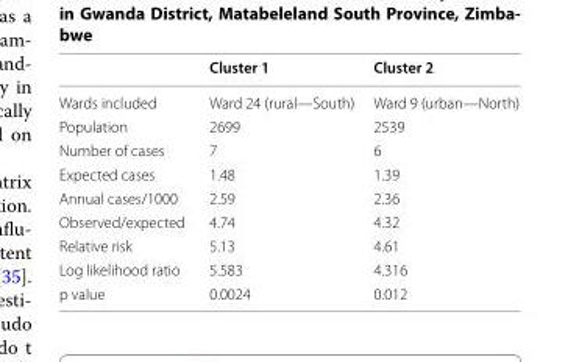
<table><thead><tr><td></td><td>Cluster 1</td><td>Cluster 2</td></tr></thead><tbody><tr><td>Wards included</td><td>Ward 24 (rural—South)</td><td>Ward 9 (urban—North)</td></tr><tr><td>Population</td><td>2699</td><td>2539</td></tr><tr><td>Number of cases</td><td>7</td><td>6</td></tr><tr><td>Expected cases</td><td>1.48</td><td>1.39</td></tr><tr><td>Annual cases/1000</td><td>2.59</td><td>2.36</td></tr><tr><td>Observed/expected</td><td>4.74</td><td>4.32</td></tr><tr><td>Relative risk</td><td>5.13</td><td>4.61</td></tr><tr><td>Log likelihood ratio</td><td>5.583</td><td>4.316</td></tr><tr><td>p value</td><td>0.0024</td><td>0.012</td></tr></tbody></table>